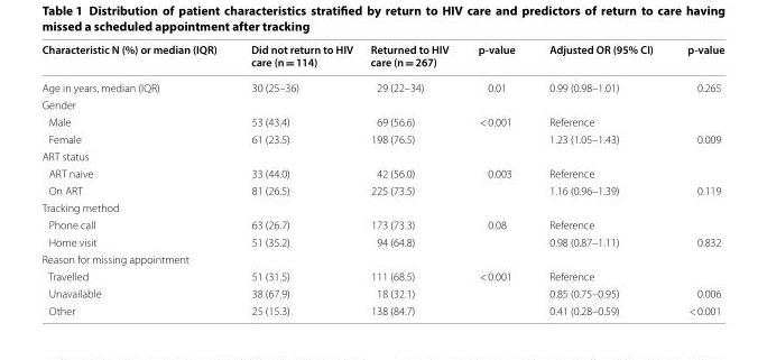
<table><thead><tr><td>Characteristic N (%) or median (IQR)</td><td>Did not return to HIV care (n = 114)</td><td>Returned to HIV care (n = 267)</td><td>p-value</td><td>Adjusted OR (95% CI)</td><td>p-value</td></tr></thead><tbody><tr><td>Age in years, median (IQR)</td><td>30 (25–36)</td><td>29 (22–34)</td><td>0.01</td><td>0.99 (0.98–1.01)</td><td>0.265</td></tr><tr><td colspan="6">Gender</td></tr><tr><td>Male</td><td>53 (43.4)</td><td>69 (56.6)</td><td>&lt; 0.001</td><td>Reference</td><td></td></tr><tr><td>Female</td><td>61 (23.5)</td><td>198 (76.5)</td><td></td><td>1.23 (1.05–1.43)</td><td>0.009</td></tr><tr><td colspan="6">ART status</td></tr><tr><td>ART naive</td><td>33 (44.0)</td><td>42 (56.0)</td><td>0.003</td><td>Reference</td><td></td></tr><tr><td>On ART</td><td>81 (26.5)</td><td>225 (73.5)</td><td></td><td>1.16 (0.96–1.39)</td><td>0.119</td></tr><tr><td colspan="6">Tracking method</td></tr><tr><td>Phone call</td><td>63 (26.7)</td><td>173 (73.3)</td><td>0.08</td><td>Reference</td><td></td></tr><tr><td>Home visit</td><td>51 (35.2)</td><td>94 (64.8)</td><td></td><td>0.98 (0.87–1.11)</td><td>0.832</td></tr><tr><td colspan="6">Reason for missing appointment</td></tr><tr><td>Travelled</td><td>51 (31.5)</td><td>111 (68.5)</td><td>&lt; 0.001</td><td>Reference</td><td></td></tr><tr><td>Unavailable</td><td>38 (67.9)</td><td>18 (32.1)</td><td></td><td>0.85 (0.75–0.95)</td><td>0.006</td></tr><tr><td>Other</td><td>25 (15.3)</td><td>138 (84.7)</td><td></td><td>0.41 (0.28–0.59)</td><td>&lt; 0.001</td></tr></tbody></table>